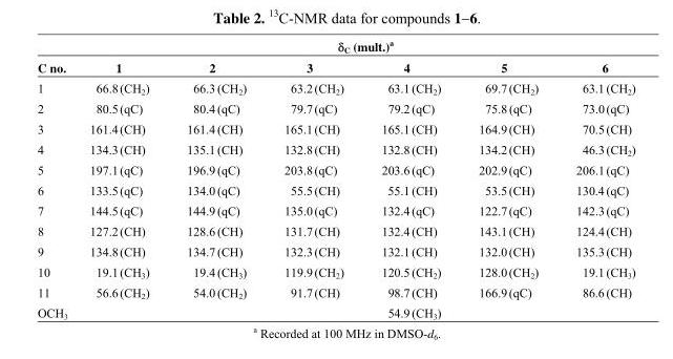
<table><thead><tr><td colspan="7">δ<sub>C</sub> (mult.)<sup>a</sup></td></tr><tr><td>C no.</td><td>1</td><td>2</td><td>3</td><td>4</td><td>5</td><td>6</td></tr></thead><tbody><tr><td>1</td><td>66.8 (CH<sub>2</sub>)</td><td>66.3 (CH<sub>2</sub>)</td><td>63.2(CH<sub>2</sub>)</td><td>63.1(CH<sub>2</sub>)</td><td>69.7 (CH<sub>2</sub>)</td><td>63.1(CH<sub>2</sub>)</td></tr><tr><td>2</td><td>80.5 (qC)</td><td>80.4 (qC)</td><td>79.7(qC)</td><td>79.2(qC)</td><td>75.8 (qC)</td><td>73.0(qC)</td></tr><tr><td>3</td><td>161.4 (CH)</td><td>161.4 (CH)</td><td>165.1(CH)</td><td>165.1(CH)</td><td>164.9 (CH)</td><td>70.5(CH)</td></tr><tr><td>4</td><td>134.3 (CH)</td><td>135.1 (CH)</td><td>132.8(CH)</td><td>132.8(CH)</td><td>134.2 (CH)</td><td>46.3(CH<sub>2</sub>)</td></tr><tr><td>5</td><td>197.1 (qC)</td><td>196.9 (qC)</td><td>203.8(qC)</td><td>203.6(qC)</td><td>202.9 (qC)</td><td>206.1(qC)</td></tr><tr><td>6</td><td>133.5 (qC)</td><td>134.0 (qC)</td><td>55.5(CH)</td><td>55.1(CH)</td><td>53.5 (CH)</td><td>130.4(qC)</td></tr><tr><td>7</td><td>144.5 (qC)</td><td>144.9 (qC)</td><td>135.0(qC)</td><td>132.4(qC)</td><td>122.7 (qC)</td><td>142.3(qC)</td></tr><tr><td>8</td><td>127.2 (CH)</td><td>128.6 (CH)</td><td>131.7(CH)</td><td>132.4(CH)</td><td>143.1 (CH)</td><td>124.4(CH)</td></tr><tr><td>9</td><td>134.8 (CH)</td><td>134.7 (CH)</td><td>132.3(CH)</td><td>132.1(CH)</td><td>132.0 (CH)</td><td>135.3(CH)</td></tr><tr><td>10</td><td>19.1 (CH<sub>3</sub>)</td><td>19.4 (CH<sub>3</sub>)</td><td>119.9(CH<sub>2</sub>)</td><td>120.5(CH<sub>2</sub>)</td><td>128.0 (CH<sub>2</sub>)</td><td>19.1(CH<sub>3</sub>)</td></tr><tr><td>11</td><td>56.6 (CH<sub>2</sub>)</td><td>54.0 (CH<sub>2</sub>)</td><td>91.7(CH)</td><td>98.7(CH)</td><td>166.9 (qC)</td><td>86.6(CH)</td></tr><tr><td>OCH<sub>3</sub></td><td></td><td></td><td></td><td>54.9(CH<sub>3</sub>)</td><td></td><td></td></tr></tbody></table>